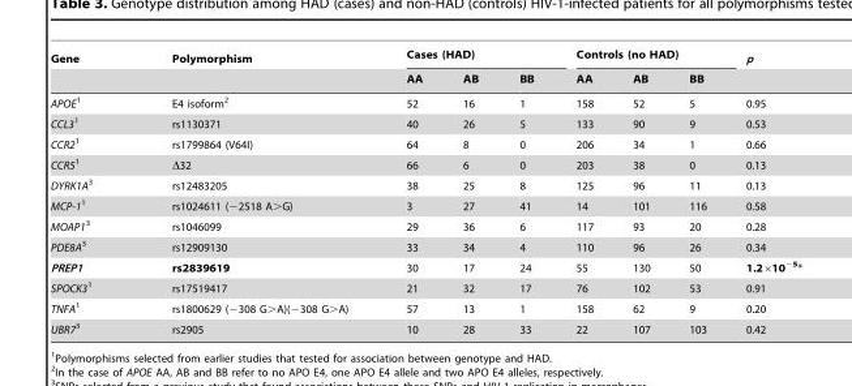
<table><thead><tr><td rowspan="2">Gene</td><td rowspan="2">Polymorphism</td><td colspan="3">Cases (HAD)</td><td colspan="3">Controls (no HAD)</td><td rowspan="2">p</td></tr><tr><td>AA</td><td>AB</td><td>BB</td><td>AA</td><td>AB</td><td>BB</td></tr></thead><tbody><tr><td>APOE1</td><td>E4 isoform<sup>2</sup></td><td>52</td><td>16</td><td>1</td><td>158</td><td>52</td><td>5</td><td>0.95</td></tr><tr><td>CCL31</td><td>rs1130371</td><td>40</td><td>26</td><td>5</td><td>133</td><td>90</td><td>9</td><td>0.53</td></tr><tr><td>CCR21</td><td>rs1799864 (V64I)</td><td>64</td><td>8</td><td>0</td><td>206</td><td>34</td><td>1</td><td>0.66</td></tr><tr><td>CCR51</td><td>Δ32</td><td>66</td><td>6</td><td>0</td><td>203</td><td>38</td><td>0</td><td>0.13</td></tr><tr><td>DYRK1A3</td><td>rs12483205</td><td>38</td><td>25</td><td>8</td><td>125</td><td>96</td><td>11</td><td>0.13</td></tr><tr><td>MCP-11</td><td>rs1024611 (−2518 A&gt;G)</td><td>3</td><td>27</td><td>41</td><td>14</td><td>101</td><td>116</td><td>0.58</td></tr><tr><td>MOAP13</td><td>rs1046099</td><td>29</td><td>36</td><td>6</td><td>117</td><td>93</td><td>20</td><td>0.28</td></tr><tr><td>PDE8A3</td><td>rs12909130</td><td>33</td><td>34</td><td>4</td><td>110</td><td>96</td><td>26</td><td>0.34</td></tr><tr><td>PREP1</td><td>rs2839619</td><td>30</td><td>17</td><td>24</td><td>55</td><td>130</td><td>50</td><td>1.2×10<sup>−5</sup>*</td></tr><tr><td>SPOCK31</td><td>rs17519417</td><td>21</td><td>32</td><td>17</td><td>76</td><td>102</td><td>53</td><td>0.91</td></tr><tr><td>TNFA1</td><td>rs1800629 (−308 G&gt;A)(−308 G&gt;A)</td><td>57</td><td>13</td><td>1</td><td>158</td><td>62</td><td>9</td><td>0.20</td></tr><tr><td>UBR73</td><td>rs2905</td><td>10</td><td>28</td><td>33</td><td>22</td><td>107</td><td>103</td><td>0.42</td></tr></tbody></table>